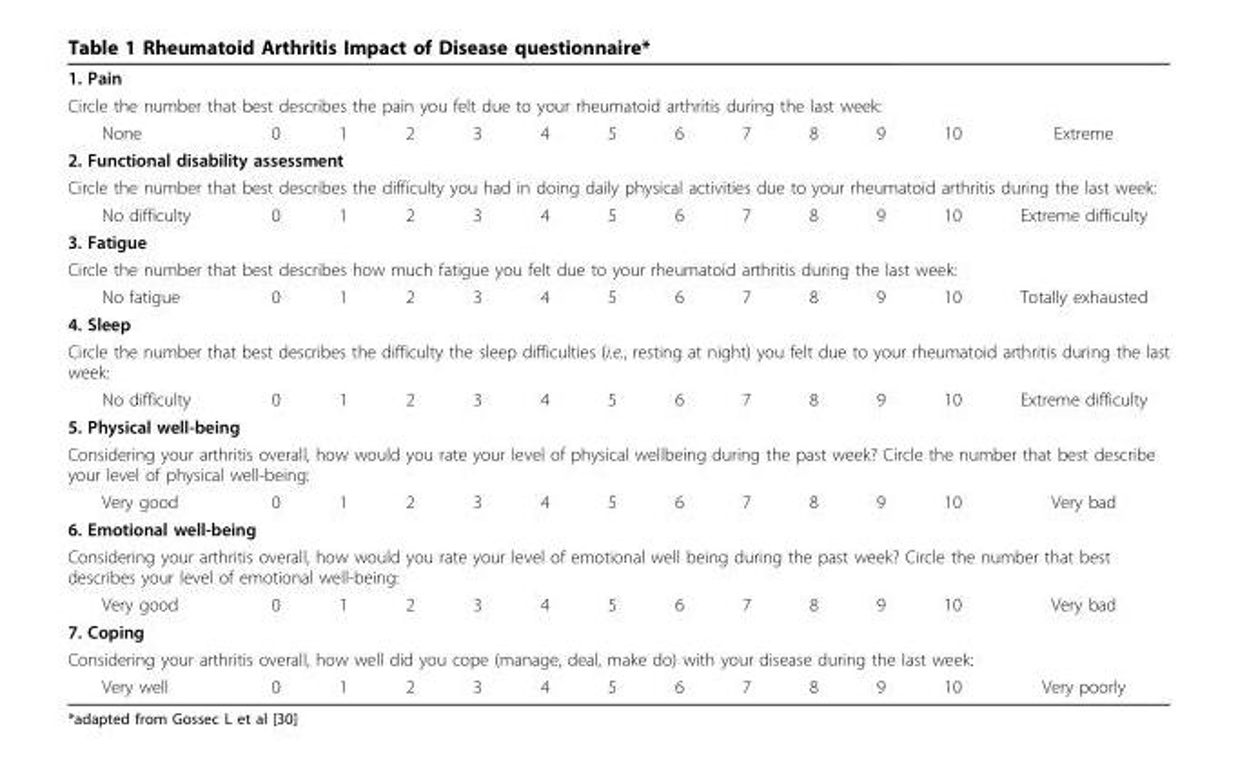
<table><tbody><tr><td colspan="13">1. Pain</td></tr><tr><td colspan="13">Circle the number that best describes the pain you felt due to your rheumatoid arthritis during the last week:</td></tr><tr><td>None</td><td>0</td><td>1</td><td>2</td><td>3</td><td>4</td><td>5</td><td>6</td><td>7</td><td>8</td><td>9</td><td>10</td><td>Extreme</td></tr><tr><td colspan="13">2. Functional disability assessment</td></tr><tr><td colspan="13">Circle the number that best describes the difficulty you had in doing daily physical activities due to your rheumatoid arthritis during the last week:</td></tr><tr><td>No difficulty</td><td>0</td><td>1</td><td>2</td><td>3</td><td>4</td><td>5</td><td>6</td><td>7</td><td>8</td><td>9</td><td>10</td><td>Extreme difficulty</td></tr><tr><td colspan="13">3. Fatigue</td></tr><tr><td colspan="13">Circle the number that best describes how much fatigue you felt due to your rheumatoid arthritis during the last week:</td></tr><tr><td>No fatigue</td><td>0</td><td>1</td><td>2</td><td>3</td><td>4</td><td>5</td><td>6</td><td>7</td><td>8</td><td>9</td><td>10</td><td>Totally exhausted</td></tr><tr><td colspan="13">4. Sleep</td></tr><tr><td colspan="13">Circle the number that best describes the difficulty the sleep difficulties (i.e., resting at night) you felt due to your rheumatoid arthritis during the last week:</td></tr><tr><td>No difficulty</td><td>0</td><td>1</td><td>2</td><td>3</td><td>4</td><td>5</td><td>6</td><td>7</td><td>8</td><td>9</td><td>10</td><td>Extreme difficulty</td></tr><tr><td colspan="13">5. Physical well-being</td></tr><tr><td colspan="13">Considering your arthritis overall, how would you rate your level of physical wellbeing during the past week? Circle the number that best describe your level of physical well-being:</td></tr><tr><td>Very good</td><td>0</td><td>1</td><td>2</td><td>3</td><td>4</td><td>5</td><td>6</td><td>7</td><td>8</td><td>9</td><td>10</td><td>Very bad</td></tr><tr><td colspan="13">6. Emotional well-being</td></tr><tr><td colspan="13">Considering your arthritis overall, how would you rate your level of emotional well being during the past week? Circle the number that best describes your level of emotional well-being:</td></tr><tr><td>Very good</td><td>0</td><td>1</td><td>2</td><td>3</td><td>4</td><td>5</td><td>6</td><td>7</td><td>8</td><td>9</td><td>10</td><td>Very bad</td></tr><tr><td colspan="13">7. Coping</td></tr><tr><td colspan="13">Considering your arthritis overall, how well did you cope (manage, deal, make do) with your disease during the last week:</td></tr><tr><td>Very well</td><td>0</td><td>1</td><td>2</td><td>3</td><td>4</td><td>5</td><td>6</td><td>7</td><td>8</td><td>9</td><td>10</td><td>Very poorly</td></tr></tbody></table>